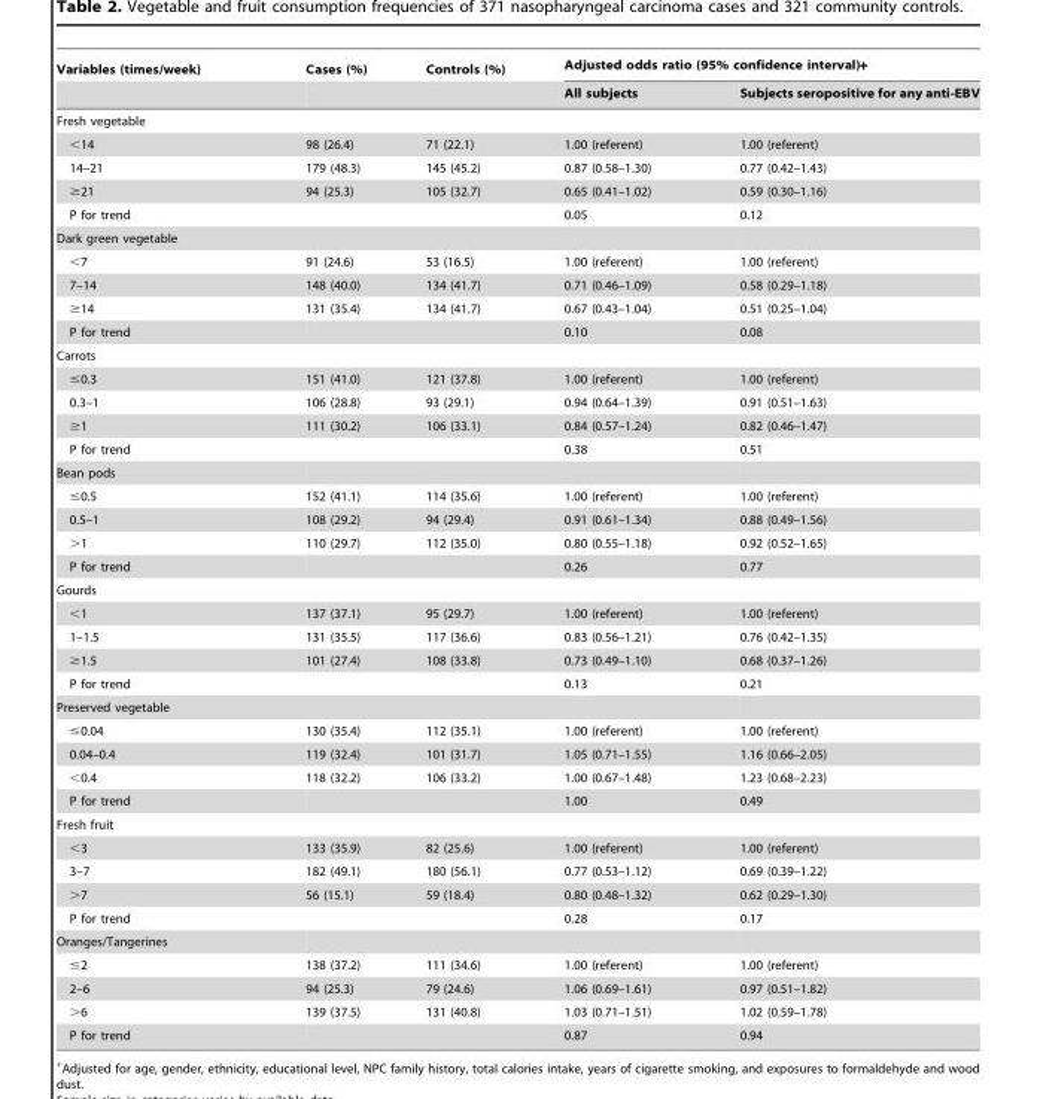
<table><thead><tr><td rowspan="2">Variables (times/week)</td><td rowspan="2">Cases (%)</td><td rowspan="2">Controls (%)</td><td colspan="2">Adjusted odds ratio (95% confidence interval)+</td></tr><tr><td>All subjects</td><td>Subjects seropositive for any anti-EBV</td></tr></thead><tbody><tr><td colspan="5">Fresh vegetable</td></tr><tr><td>&lt;14</td><td>98 (26.4)</td><td>71 (22.1)</td><td>1.00 (referent)</td><td>1.00 (referent)</td></tr><tr><td>14–21</td><td>179 (48.3)</td><td>145 (45.2)</td><td>0.87 (0.58–1.30)</td><td>0.77 (0.42–1.43)</td></tr><tr><td>≥21</td><td>94 (25.3)</td><td>105 (32.7)</td><td>0.65 (0.41–1.02)</td><td>0.59 (0.30–1.16)</td></tr><tr><td>P for trend</td><td></td><td></td><td>0.05</td><td>0.12</td></tr><tr><td colspan="5">Dark green vegetable</td></tr><tr><td>&lt;7</td><td>91 (24.6)</td><td>53 (16.5)</td><td>1.00 (referent)</td><td>1.00 (referent)</td></tr><tr><td>7–14</td><td>148 (40.0)</td><td>134 (41.7)</td><td>0.71 (0.46–1.09)</td><td>0.58 (0.29–1.18)</td></tr><tr><td>≥14</td><td>131 (35.4)</td><td>134 (41.7)</td><td>0.67 (0.43–1.04)</td><td>0.51 (0.25–1.04)</td></tr><tr><td>P for trend</td><td></td><td></td><td>0.10</td><td>0.08</td></tr><tr><td colspan="5">Carrots</td></tr><tr><td>≤0.3</td><td>151 (41.0)</td><td>121 (37.8)</td><td>1.00 (referent)</td><td>1.00 (referent)</td></tr><tr><td>0.3–1</td><td>106 (28.8)</td><td>93 (29.1)</td><td>0.94 (0.64–1.39)</td><td>0.91 (0.51–1.63)</td></tr><tr><td>≥1</td><td>111 (30.2)</td><td>106 (33.1)</td><td>0.84 (0.57–1.24)</td><td>0.82 (0.46–1.47)</td></tr><tr><td>P for trend</td><td></td><td></td><td>0.38</td><td>0.51</td></tr><tr><td colspan="5">Bean pods</td></tr><tr><td>≤0.5</td><td>152 (41.1)</td><td>114 (35.6)</td><td>1.00 (referent)</td><td>1.00 (referent)</td></tr><tr><td>0.5–1</td><td>108 (29.2)</td><td>94 (29.4)</td><td>0.91 (0.61–1.34)</td><td>0.88 (0.49–1.56)</td></tr><tr><td>&gt;1</td><td>110 (29.7)</td><td>112 (35.0)</td><td>0.80 (0.55–1.18)</td><td>0.92 (0.52–1.65)</td></tr><tr><td>P for trend</td><td></td><td></td><td>0.26</td><td>0.77</td></tr><tr><td colspan="5">Gourds</td></tr><tr><td>&lt;1</td><td>137 (37.1)</td><td>95 (29.7)</td><td>1.00 (referent)</td><td>1.00 (referent)</td></tr><tr><td>1–1.5</td><td>131 (35.5)</td><td>117 (36.6)</td><td>0.83 (0.56–1.21)</td><td>0.76 (0.42–1.35)</td></tr><tr><td>≥1.5</td><td>101 (27.4)</td><td>108 (33.8)</td><td>0.73 (0.49–1.10)</td><td>0.68 (0.37–1.26)</td></tr><tr><td>P for trend</td><td></td><td></td><td>0.13</td><td>0.21</td></tr><tr><td colspan="5">Preserved vegetable</td></tr><tr><td>≤0.04</td><td>130 (35.4)</td><td>112 (35.1)</td><td>1.00 (referent)</td><td>1.00 (referent)</td></tr><tr><td>0.04–0.4</td><td>119 (32.4)</td><td>101 (31.7)</td><td>1.05 (0.71–1.55)</td><td>1.16 (0.66–2.05)</td></tr><tr><td>&lt;0.4</td><td>118 (32.2)</td><td>106 (33.2)</td><td>1.00 (0.67–1.48)</td><td>1.23 (0.68–2.23)</td></tr><tr><td>P for trend</td><td></td><td></td><td>1.00</td><td>0.49</td></tr><tr><td colspan="5">Fresh fruit</td></tr><tr><td>&lt;3</td><td>133 (35.9)</td><td>82 (25.6)</td><td>1.00 (referent)</td><td>1.00 (referent)</td></tr><tr><td>3–7</td><td>182 (49.1)</td><td>180 (56.1)</td><td>0.77 (0.53–1.12)</td><td>0.69 (0.39–1.22)</td></tr><tr><td>&gt;7</td><td>56 (15.1)</td><td>59 (18.4)</td><td>0.80 (0.48–1.32)</td><td>0.62 (0.29–1.30)</td></tr><tr><td>P for trend</td><td></td><td></td><td>0.28</td><td>0.17</td></tr><tr><td colspan="5">Oranges/Tangerines</td></tr><tr><td>≤2</td><td>138 (37.2)</td><td>111 (34.6)</td><td>1.00 (referent)</td><td>1.00 (referent)</td></tr><tr><td>2–6</td><td>94 (25.3)</td><td>79 (24.6)</td><td>1.06 (0.69–1.61)</td><td>0.97 (0.51–1.82)</td></tr><tr><td>&gt;6</td><td>139 (37.5)</td><td>131 (40.8)</td><td>1.03 (0.71–1.51)</td><td>1.02 (0.59–1.78)</td></tr><tr><td>P for trend</td><td></td><td></td><td>0.87</td><td>0.94</td></tr></tbody></table>